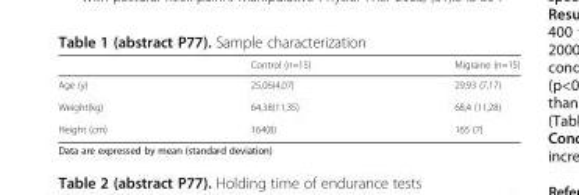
<table><thead><tr><td></td><td>Control (n=15)</td><td>Migraine (n=15)</td></tr></thead><tbody><tr><td>Age (y)</td><td>25,06(4,07)</td><td>29,93 (7,17)</td></tr><tr><td>Weight(kg)</td><td>64,38(11,35)</td><td>68,4 (11,28)</td></tr><tr><td>Height (cm)</td><td>164(8)</td><td>165 (7)</td></tr></tbody></table>